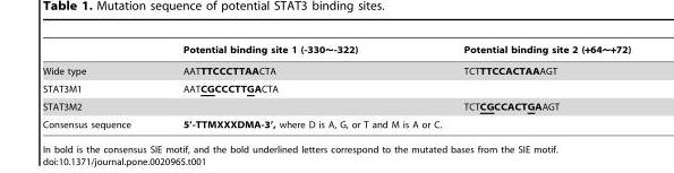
<table><thead><tr><td></td><td>Potential binding site 1 (-330∼-322)</td><td>Potential binding site 2 (+64∼+72)</td></tr></thead><tbody><tr><td>Wide type</td><td>AATTTCCCTTAACTA</td><td>TCTTTCCACTAAAGT</td></tr><tr><td>STAT3M1</td><td>AATCGCCCTTGACTA</td><td></td></tr><tr><td>STAT3M2</td><td></td><td>TCTCGCCACTGAAGT</td></tr><tr><td>Consensus sequence</td><td colspan="2">5’-TTMXXXDMA-3’, where D is A, G, or T and M is A or C.</td></tr></tbody></table>